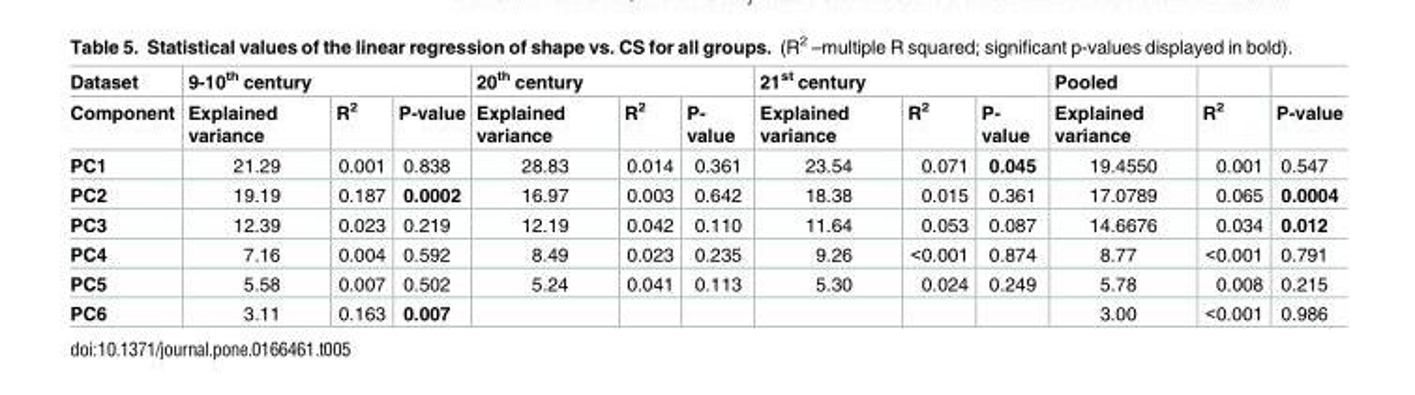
<table><thead><tr><td rowspan="2">Dataset Component</td><td colspan="3">9-10<sup>th</sup> century</td><td colspan="3">20<sup>th</sup> century</td><td colspan="3">21<sup>st</sup> century</td><td rowspan="2">Pooled Explained variance</td><td rowspan="2">R<sup>2</sup></td><td rowspan="2">P-value</td></tr><tr><td>Explained variance</td><td>R<sup>2</sup></td><td>P-value</td><td>Explained variance</td><td>R<sup>2</sup></td><td>P- value</td><td>Explained variance</td><td>R<sup>2</sup></td><td>P- value</td></tr></thead><tbody><tr><td>PC1</td><td>21.29</td><td>0.001</td><td>0.838</td><td>28.83</td><td>0.014</td><td>0.361</td><td>23.54</td><td>0.071</td><td>0.045</td><td>19.4550</td><td>0.001</td><td>0.547</td></tr><tr><td>PC2</td><td>19.19</td><td>0.187</td><td>0.0002</td><td>16.97</td><td>0.003</td><td>0.642</td><td>18.38</td><td>0.015</td><td>0.361</td><td>17.0789</td><td>0.065</td><td>0.0004</td></tr><tr><td>PC3</td><td>12.39</td><td>0.023</td><td>0.219</td><td>12.19</td><td>0.042</td><td>0.110</td><td>11.64</td><td>0.053</td><td>0.087</td><td>14.6676</td><td>0.034</td><td>0.012</td></tr><tr><td>PC4</td><td>7.16</td><td>0.004</td><td>0.592</td><td>8.49</td><td>0.023</td><td>0.235</td><td>9.26</td><td>&lt;0.001</td><td>0.874</td><td>8.77</td><td>&lt;0.001</td><td>0.791</td></tr><tr><td>PC5</td><td>5.58</td><td>0.007</td><td>0.502</td><td>5.24</td><td>0.041</td><td>0.113</td><td>5.30</td><td>0.024</td><td>0.249</td><td>5.78</td><td>0.008</td><td>0.215</td></tr><tr><td>PC6</td><td>3.11</td><td>0.163</td><td>0.007</td><td></td><td></td><td></td><td></td><td></td><td></td><td>3.00</td><td>&lt;0.001</td><td>0.986</td></tr></tbody></table>